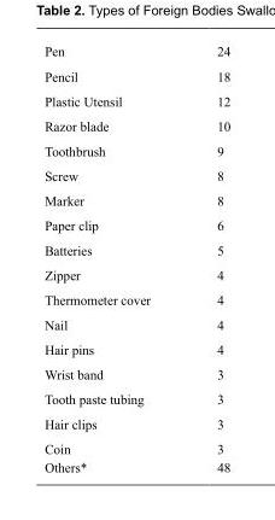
<table><tbody><tr><td>Pen</td><td>24</td></tr><tr><td>Pencil</td><td>18</td></tr><tr><td>Plastic Utensil</td><td>12</td></tr><tr><td>Razor blade</td><td>10</td></tr><tr><td>Toothbrush</td><td>9</td></tr><tr><td>Screw</td><td>8</td></tr><tr><td>Marker</td><td>8</td></tr><tr><td>Paper clip</td><td>6</td></tr><tr><td>Batteries</td><td>5</td></tr><tr><td>Zipper</td><td>4</td></tr><tr><td>Thermometer cover</td><td>4</td></tr><tr><td>Nail</td><td>4</td></tr><tr><td>Hair pins</td><td>4</td></tr><tr><td>Wrist band</td><td>3</td></tr><tr><td>Tooth paste tubing</td><td>3</td></tr><tr><td>Hair clips</td><td>3</td></tr><tr><td>Coin</td><td>3</td></tr><tr><td>Others*</td><td>48</td></tr></tbody></table>